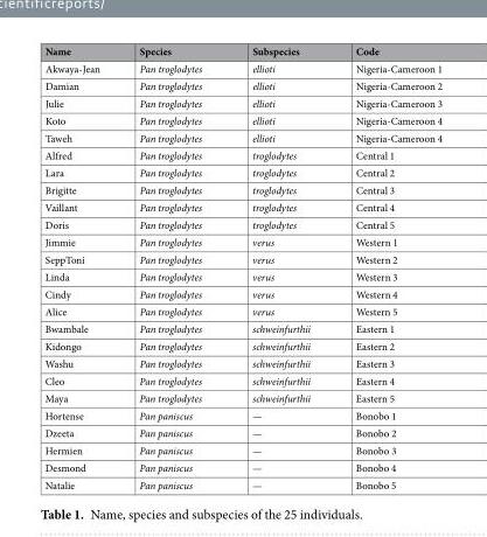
<table><thead><tr><td>Name</td><td>Species</td><td>Subspecies</td><td>Code</td></tr></thead><tbody><tr><td>Akwaya-Jean</td><td>Pan troglodytes</td><td>ellioti</td><td>Nigeria-Cameroon 1</td></tr><tr><td>Damian</td><td>Pan troglodytes</td><td>ellioti</td><td>Nigeria-Cameroon 2</td></tr><tr><td>Julie</td><td>Pan troglodytes</td><td>ellioti</td><td>Nigeria-Cameroon 3</td></tr><tr><td>Koto</td><td>Pan troglodytes</td><td>ellioti</td><td>Nigeria-Cameroon 4</td></tr><tr><td>Taweh</td><td>Pan troglodytes</td><td>ellioti</td><td>Nigeria-Cameroon 4</td></tr><tr><td>Alfred</td><td>Pan troglodytes</td><td>troglodytes</td><td>Central 1</td></tr><tr><td>Lara</td><td>Pan troglodytes</td><td>troglodytes</td><td>Central 2</td></tr><tr><td>Brigitte</td><td>Pan troglodytes</td><td>troglodytes</td><td>Central 3</td></tr><tr><td>Vaillant</td><td>Pan troglodytes</td><td>troglodytes</td><td>Central 4</td></tr><tr><td>Doris</td><td>Pan troglodytes</td><td>troglodytes</td><td>Central 5</td></tr><tr><td>Jimmie</td><td>Pan troglodytes</td><td>verus</td><td>Western 1</td></tr><tr><td>SeppToni</td><td>Pan troglodytes</td><td>verus</td><td>Western 2</td></tr><tr><td>Linda</td><td>Pan troglodytes</td><td>verus</td><td>Western 3</td></tr><tr><td>Cindy</td><td>Pan troglodytes</td><td>verus</td><td>Western 4</td></tr><tr><td>Alice</td><td>Pan troglodytes</td><td>verus</td><td>Western 5</td></tr><tr><td>Bwambale</td><td>Pan troglodytes</td><td>schweinfurthii</td><td>Eastern 1</td></tr><tr><td>Kidongo</td><td>Pan troglodytes</td><td>schweinfurthii</td><td>Eastern 2</td></tr><tr><td>Washu</td><td>Pan troglodytes</td><td>schweinfurthii</td><td>Eastern 3</td></tr><tr><td>Cleo</td><td>Pan troglodytes</td><td>schweinfurthii</td><td>Eastern 4</td></tr><tr><td>Maya</td><td>Pan troglodytes</td><td>schweinfurthii</td><td>Eastern 5</td></tr><tr><td>Hortense</td><td>Pan paniscus</td><td>—</td><td>Bonobo 1</td></tr><tr><td>Dzeeta</td><td>Pan paniscus</td><td>—</td><td>Bonobo 2</td></tr><tr><td>Hermien</td><td>Pan paniscus</td><td>—</td><td>Bonobo 3</td></tr><tr><td>Desmond</td><td>Pan paniscus</td><td>—</td><td>Bonobo 4</td></tr><tr><td>Natalie</td><td>Pan paniscus</td><td>—</td><td>Bonobo 5</td></tr></tbody></table>